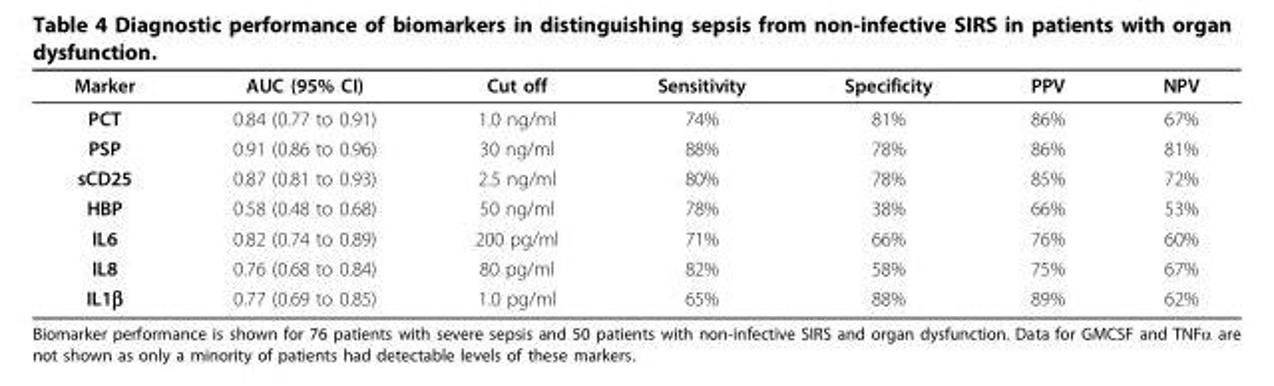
<table><thead><tr><td>Marker</td><td>AUC (95% CI)</td><td>Cut off</td><td>Sensitivity</td><td>Specificity</td><td>PPV</td><td>NPV</td></tr></thead><tbody><tr><td>PCT</td><td>0.84 (0.77 to 0.91)</td><td>1.0 ng/ml</td><td>74%</td><td>81%</td><td>86%</td><td>67%</td></tr><tr><td>PSP</td><td>0.91 (0.86 to 0.96)</td><td>30 ng/ml</td><td>88%</td><td>78%</td><td>86%</td><td>81%</td></tr><tr><td>sCD25</td><td>0.87 (0.81 to 0.93)</td><td>2.5 ng/ml</td><td>80%</td><td>78%</td><td>85%</td><td>72%</td></tr><tr><td>HBP</td><td>0.58 (0.48 to 0.68)</td><td>50 ng/ml</td><td>78%</td><td>38%</td><td>66%</td><td>53%</td></tr><tr><td>IL6</td><td>0.82 (0.74 to 0.89)</td><td>200 pg/ml</td><td>71%</td><td>66%</td><td>76%</td><td>60%</td></tr><tr><td>IL8</td><td>0.76 (0.68 to 0.84)</td><td>80 pg/ml</td><td>82%</td><td>58%</td><td>75%</td><td>67%</td></tr><tr><td>IL1β</td><td>0.77 (0.69 to 0.85)</td><td>1.0 pg/ml</td><td>65%</td><td>88%</td><td>89%</td><td>62%</td></tr></tbody></table>